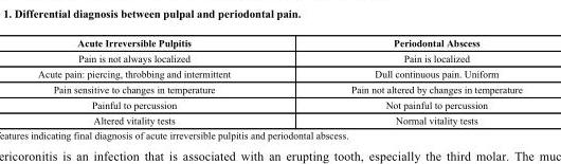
<table><thead><tr><td>Acute Irreversible Pulpitis</td><td>Periodontal Abscess</td></tr></thead><tbody><tr><td>Pain is not always localized</td><td>Pain is localized</td></tr><tr><td>Acute pain: piercing, throbbing and intermittent</td><td>Dull continuous pain. Uniform</td></tr><tr><td>Pain sensitive to changes in temperature</td><td>Pain not altered by changes in temperature</td></tr><tr><td>Painful to percussion</td><td>Not painful to percussion</td></tr><tr><td>Altered vitality tests</td><td>Normal vitality tests</td></tr></tbody></table>